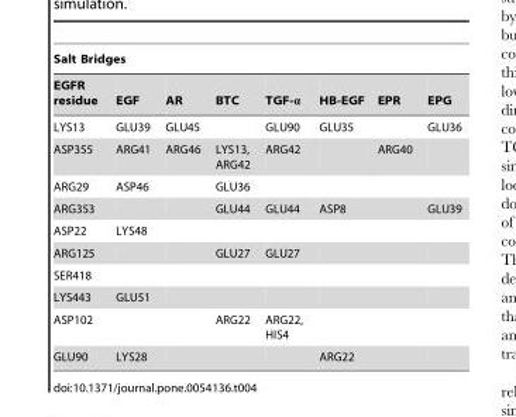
<table><thead><tr><td colspan="8">Salt Bridges</td></tr><tr><td>EGFR residue</td><td>EGF</td><td>AR</td><td>BTC</td><td>TGF-α</td><td>HB-EGF</td><td>EPR</td><td>EPG</td></tr></thead><tbody><tr><td>LYS13</td><td>GLU39</td><td>GLU45</td><td></td><td>GLU90</td><td>GLU35</td><td></td><td>GLU36</td></tr><tr><td>ASP355</td><td>ARG41</td><td>ARG46</td><td>LYS13, ARG42</td><td>ARG42</td><td></td><td>ARG40</td><td></td></tr><tr><td>ARG29</td><td>ASP46</td><td></td><td>GLU36</td><td></td><td></td><td></td><td></td></tr><tr><td>ARG353</td><td></td><td></td><td>GLU44</td><td>GLU44</td><td>ASP8</td><td></td><td>GLU39</td></tr><tr><td>ASP22</td><td>LYS48</td><td></td><td></td><td></td><td></td><td></td><td></td></tr><tr><td>ARG125</td><td></td><td></td><td>GLU27</td><td>GLU27</td><td></td><td></td><td></td></tr><tr><td colspan="8">SER418</td></tr><tr><td>LYS443</td><td>GLU51</td><td></td><td></td><td></td><td></td><td></td><td></td></tr><tr><td>ASP102</td><td></td><td></td><td>ARG22</td><td>ARG22, HIS4</td><td></td><td></td><td></td></tr><tr><td>GLU90</td><td>LYS28</td><td></td><td></td><td></td><td>ARG22</td><td></td><td></td></tr></tbody></table>